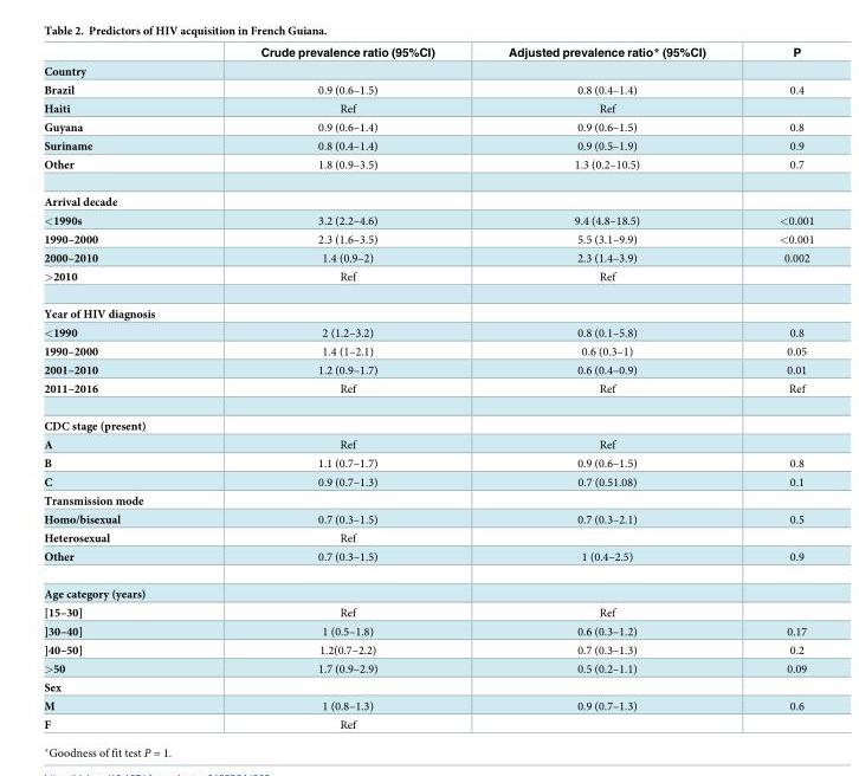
<table><thead><tr><td></td><td>Crude prevalence ratio (95%CI)</td><td>Adjusted prevalence ratio* (95%CI)</td><td>P</td></tr></thead><tbody><tr><td colspan="4">Country</td></tr><tr><td>Brazil</td><td>0.9 (0.6–1.5)</td><td>0.8 (0.4–1.4)</td><td>0.4</td></tr><tr><td>Haiti</td><td>Ref</td><td>Ref</td><td></td></tr><tr><td>Guyana</td><td>0.9 (0.6–1.4)</td><td>0.9 (0.6–1.5)</td><td>0.8</td></tr><tr><td>Suriname</td><td>0.8 (0.4–1.4)</td><td>0.9 (0.5–1.9)</td><td>0.9</td></tr><tr><td>Other</td><td>1.8 (0.9–3.5)</td><td>1.3 (0.2–10.5)</td><td>0.7</td></tr><tr><td colspan="4">Arrival decade</td></tr><tr><td>&lt;1990s</td><td>3.2 (2.2–4.6)</td><td>9.4 (4.8–18.5)</td><td>&lt;0.001</td></tr><tr><td>1990–2000</td><td>2.3 (1.6–3.5)</td><td>5.5 (3.1–9.9)</td><td>&lt;0.001</td></tr><tr><td>2000–2010</td><td>1.4 (0.9–2)</td><td>2.3 (1.4–3.9)</td><td>0.002</td></tr><tr><td>&gt;2010</td><td>Ref</td><td>Ref</td><td></td></tr><tr><td colspan="4">Year of HIV diagnosis</td></tr><tr><td>&lt;1990</td><td>2 (1.2–3.2)</td><td>0.8 (0.1–5.8)</td><td>0.8</td></tr><tr><td>1990–2000</td><td>1.4 (1–2.1)</td><td>0.6 (0.3–1)</td><td>0.05</td></tr><tr><td>2001–2010</td><td>1.2 (0.9–1.7)</td><td>0.6 (0.4–0.9)</td><td>0.01</td></tr><tr><td>2011–2016</td><td>Ref</td><td>Ref</td><td>Ref</td></tr><tr><td colspan="4">CDC stage (present)</td></tr><tr><td>A</td><td>Ref</td><td>Ref</td><td></td></tr><tr><td>B</td><td>1.1 (0.7–1.7)</td><td>0.9 (0.6–1.5)</td><td>0.8</td></tr><tr><td>C</td><td>0.9 (0.7–1.3)</td><td>0.7 (0.51.08)</td><td>0.1</td></tr><tr><td colspan="4">Transmission mode</td></tr><tr><td>Homo/bisexual</td><td>0.7 (0.3–1.5)</td><td>0.7 (0.3–2.1)</td><td>0.5</td></tr><tr><td>Heterosexual</td><td>Ref</td><td></td><td></td></tr><tr><td>Other</td><td>0.7 (0.3–1.5)</td><td>1 (0.4–2.5)</td><td>0.9</td></tr><tr><td colspan="4">Age category (years)</td></tr><tr><td>[15–30]</td><td>Ref</td><td>Ref</td><td></td></tr><tr><td>]30–40]</td><td>1 (0.5–1.8)</td><td>0.6 (0.3–1.2)</td><td>0.17</td></tr><tr><td>]40–50]</td><td>1.2(0.7–2.2)</td><td>0.7 (0.3–1.3)</td><td>0.2</td></tr><tr><td>&gt;50</td><td>1.7 (0.9–2.9)</td><td>0.5 (0.2–1.1)</td><td>0.09</td></tr><tr><td colspan="4">Sex</td></tr><tr><td>M</td><td>1 (0.8–1.3)</td><td>0.9 (0.7–1.3)</td><td>0.6</td></tr><tr><td>F</td><td>Ref</td><td></td><td></td></tr></tbody></table>